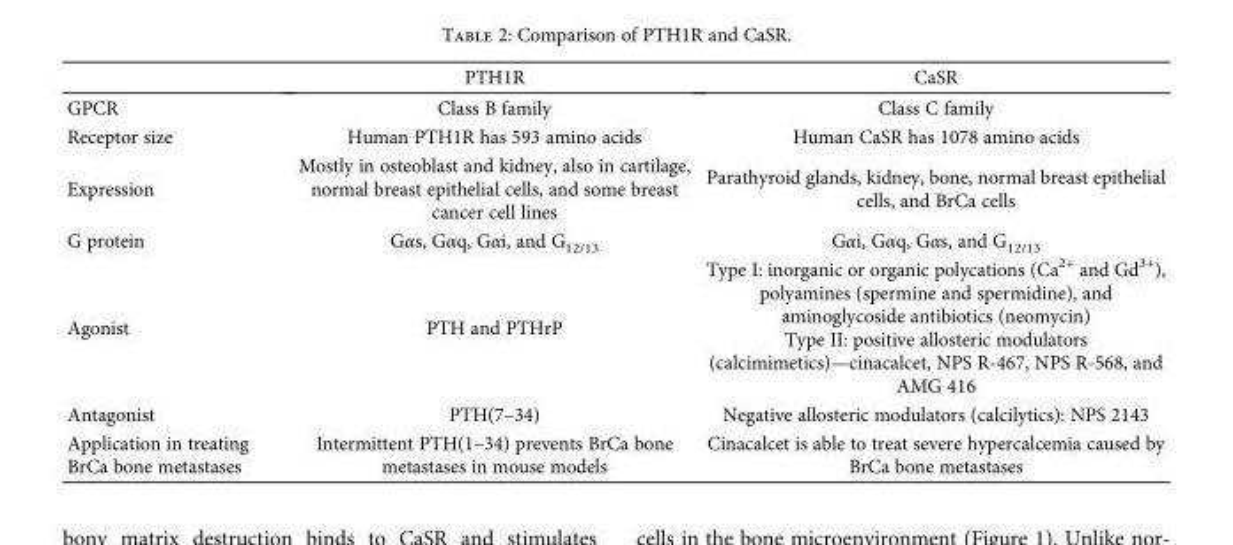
<table><thead><tr><td></td><td>PTH1R</td><td>CaSR</td></tr></thead><tbody><tr><td>GPCR</td><td>Class B family</td><td>Class C family</td></tr><tr><td>Receptor size</td><td>Human PTH1R has 593 amino acids</td><td>Human CaSR has 1078 amino acids</td></tr><tr><td>Expression</td><td>Mostly in osteoblast and kidney, also in cartilage, normal breast epithelial cells, and some breast cancer cell lines</td><td>Parathyroid glands, kidney, bone, normal breast epithelial cells, and BrCa cells</td></tr><tr><td>G protein</td><td>Gαs, Gαq, Gαi, and G<sub>12/13</sub></td><td>Gαi, Gαq, Gαs, and G<sub>12/13</sub></td></tr><tr><td>Agonist</td><td>PTH and PTHrP</td><td>Type I: inorganic or organic polycations (Ca<sup>2+</sup> and Gd<sup>3+</sup>), polyamines (spermine and spermidine), and aminoglycoside antibiotics (neomycin) Type II: positive allosteric modulators (calcimimetics)—cinacalcet, NPS R-467, NPS R-568, and AMG 416</td></tr><tr><td>Antagonist</td><td>PTH(7–34)</td><td>Negative allosteric modulators (calcilytics): NPS 2143</td></tr><tr><td>Application in treating BrCa bone metastases</td><td>Intermittent PTH(1–34) prevents BrCa bone metastases in mouse models</td><td>Cinacalcet is able to treat severe hypercalcemia caused by BrCa bone metastases</td></tr></tbody></table>